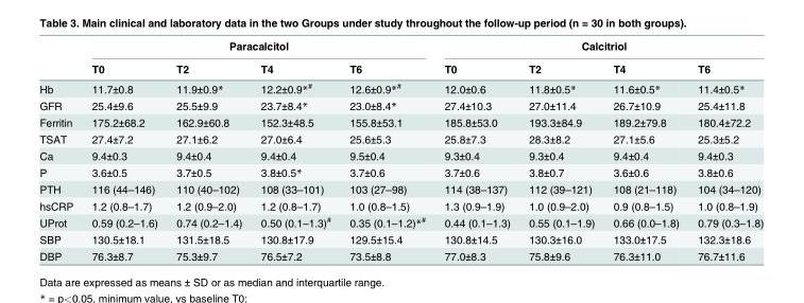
<table><thead><tr><td rowspan="2"></td><td colspan="4">Paracalcitol</td><td colspan="4">Calcitriol</td></tr><tr><td>T0</td><td>T2</td><td>T4</td><td>T6</td><td>T0</td><td>T2</td><td>T4</td><td>T6</td></tr></thead><tbody><tr><td>Hb</td><td>11.7±0.8</td><td>11.9±0.9*</td><td>12.2±0.9*<sup>#</sup></td><td>12.6±0.9*<sup>#</sup></td><td>12.0±0.6</td><td>11.8±0.5*</td><td>11.6±0.5*</td><td>11.4±0.5*</td></tr><tr><td>GFR</td><td>25.4±9.6</td><td>25.5±9.9</td><td>23.7±8.4*</td><td>23.0±8.4*</td><td>27.4±10.3</td><td>27.0±11.4</td><td>26.7±10.9</td><td>25.4±11.8</td></tr><tr><td>Ferritin</td><td>175.2±68.2</td><td>162.9±60.8</td><td>152.3±48.5</td><td>155.8±53.1</td><td>185.8±53.0</td><td>193.3±84.9</td><td>189.2±79.8</td><td>180.4±72.2</td></tr><tr><td>TSAT</td><td>27.4±7.2</td><td>27.1±6.2</td><td>27.0±6.4</td><td>25.6±5.3</td><td>25.8±7.3</td><td>28.3±8.2</td><td>27.1±5.6</td><td>25.3±5.2</td></tr><tr><td>Ca</td><td>9.4±0.3</td><td>9.4±0.4</td><td>9.4±0.4</td><td>9.5±0.4</td><td>9.3±0.4</td><td>9.3±0.4</td><td>9.4±0.4</td><td>9.4±0.3</td></tr><tr><td>P</td><td>3.6±0.5</td><td>3.7±0.5</td><td>3.8±0.5*</td><td>3.7±0.6</td><td>3.7±0.6</td><td>3.8±0.7</td><td>3.6±0.6</td><td>3.8±0.6</td></tr><tr><td>PTH</td><td>116 (44–146)</td><td>110 (40–102)</td><td>108 (33–101)</td><td>103 (27–98)</td><td>114 (38–137)</td><td>112 (39–121)</td><td>108 (21–118)</td><td>104 (34–120)</td></tr><tr><td>hsCRP</td><td>1.2 (0.8–1.7)</td><td>1.2 (0.9–2.0)</td><td>1.2 (0.8–1.7)</td><td>1.0 (0.8–1.5)</td><td>1.3 (0.9–1.9)</td><td>1.0 (0.9–2.0)</td><td>0.9 (0.8–1.5)</td><td>1.0 (0.8–1.9)</td></tr><tr><td>UProt</td><td>0.59 (0.2–1.6)</td><td>0.74 (0.2–1.4)</td><td>0.50 (0.1–1.3)<sup>#</sup></td><td>0.35 (0.1–1.2)*<sup>#</sup></td><td>0.44 (0.1–1.3)</td><td>0.55 (0.1–1.9)</td><td>0.66 (0.0–1.8)</td><td>0.79 (0.3–1.8)</td></tr><tr><td>SBP</td><td>130.5±18.1</td><td>131.5±18.5</td><td>130.8±17.9</td><td>129.5±15.4</td><td>130.8±14.5</td><td>130.3±16.0</td><td>133.0±17.5</td><td>132.3±18.6</td></tr><tr><td>DBP</td><td>76.3±8.7</td><td>75.3±9.7</td><td>76.5±7.2</td><td>73.5±8.8</td><td>77.0±8.3</td><td>75.8±9.6</td><td>76.3±11.0</td><td>76.7±11.6</td></tr></tbody></table>